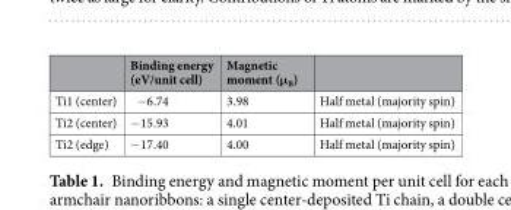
<table><thead><tr><td></td><td>Binding energy (eV/unit cell)</td><td>Magnetic moment (μ<sub>B</sub>)</td><td></td></tr></thead><tbody><tr><td>Ti1 (center)</td><td>−6.74</td><td>3.98</td><td>Half metal (majority spin)</td></tr><tr><td>Ti2 (center)</td><td>−15.93</td><td>4.01</td><td>Half metal (majority spin)</td></tr><tr><td>Ti2 (edge)</td><td>−17.40</td><td>4.00</td><td>Half metal (majority spin)</td></tr></tbody></table>